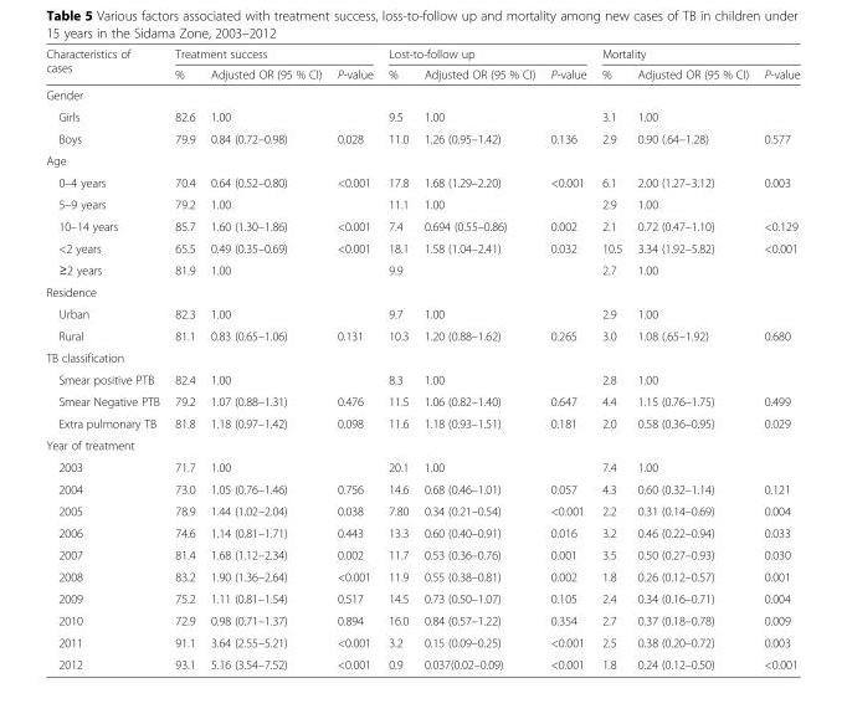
<table><thead><tr><td rowspan="2">Characteristics of cases</td><td colspan="3">Treatment success</td><td colspan="3">Lost-to-follow up</td><td colspan="3">Mortality</td></tr><tr><td>%</td><td>Adjusted OR (95 % CI)</td><td>P-value</td><td>%</td><td>Adjusted OR (95 % CI)</td><td>P-value</td><td>%</td><td>Adjusted OR (95 % CI)</td><td>P-value</td></tr></thead><tbody><tr><td colspan="10">Gender</td></tr><tr><td>Girls</td><td>82.6</td><td>1.00</td><td></td><td>9.5</td><td>1.00</td><td></td><td>3.1</td><td>1.00</td><td></td></tr><tr><td>Boys</td><td>79.9</td><td>0.84 (0.72–0.98)</td><td>0.028</td><td>11.0</td><td>1.26 (0.95–1.42)</td><td>0.136</td><td>2.9</td><td>0.90 (.64–1.28)</td><td>0.577</td></tr><tr><td colspan="10">Age</td></tr><tr><td>0–4 years</td><td>70.4</td><td>0.64 (0.52–0.80)</td><td>&lt;0.001</td><td>17.8</td><td>1.68 (1.29–2.20)</td><td>&lt;0.001</td><td>6.1</td><td>2.00 (1.27–3.12)</td><td>0.003</td></tr><tr><td>5–9 years</td><td>79.2</td><td>1.00</td><td></td><td>11.1</td><td>1.00</td><td></td><td>2.9</td><td>1.00</td><td></td></tr><tr><td>10–14 years</td><td>85.7</td><td>1.60 (1.30–1.86)</td><td>&lt;0.001</td><td>7.4</td><td>0.694 (0.55–0.86)</td><td>0.002</td><td>2.1</td><td>0.72 (0.47–1.10)</td><td>&lt;0.129</td></tr><tr><td>&lt;2 years</td><td>65.5</td><td>0.49 (0.35–0.69)</td><td>&lt;0.001</td><td>18.1</td><td>1.58 (1.04–2.41)</td><td>0.032</td><td>10.5</td><td>3.34 (1.92–5.82)</td><td>&lt;0.001</td></tr><tr><td>≥2 years</td><td>81.9</td><td>1.00</td><td></td><td>9.9</td><td></td><td></td><td>2.7</td><td>1.00</td><td></td></tr><tr><td colspan="10">Residence</td></tr><tr><td>Urban</td><td>82.3</td><td>1.00</td><td></td><td>9.7</td><td>1.00</td><td></td><td>2.9</td><td>1.00</td><td></td></tr><tr><td>Rural</td><td>81.1</td><td>0.83 (0.65–1.06)</td><td>0.131</td><td>10.3</td><td>1.20 (0.88–1.62)</td><td>0.265</td><td>3.0</td><td>1.08 (.65–1.92)</td><td>0.680</td></tr><tr><td colspan="10">TB classification</td></tr><tr><td>Smear positive PTB</td><td>82.4</td><td>1.00</td><td></td><td>8.3</td><td>1.00</td><td></td><td>2.8</td><td>1.00</td><td></td></tr><tr><td>Smear Negative PTB</td><td>79.2</td><td>1.07 (0.88–1.31)</td><td>0.476</td><td>11.5</td><td>1.06 (0.82–1.40)</td><td>0.647</td><td>4.4</td><td>1.15 (0.76–1.75)</td><td>0.499</td></tr><tr><td>Extra pulmonary TB</td><td>81.8</td><td>1.18 (0.97–1.42)</td><td>0.098</td><td>11.6</td><td>1.18 (0.93–1.51)</td><td>0.181</td><td>2.0</td><td>0.58 (0.36–0.95)</td><td>0.029</td></tr><tr><td colspan="10">Year of treatment</td></tr><tr><td>2003</td><td>71.7</td><td>1.00</td><td></td><td>20.1</td><td>1.00</td><td></td><td>7.4</td><td>1.00</td><td></td></tr><tr><td>2004</td><td>73.0</td><td>1.05 (0.76–1.46)</td><td>0.756</td><td>14.6</td><td>0.68 (0.46–1.01)</td><td>0.057</td><td>4.3</td><td>0.60 (0.32–1.14)</td><td>0.121</td></tr><tr><td>2005</td><td>78.9</td><td>1.44 (1.02–2.04)</td><td>0.038</td><td>7.80</td><td>0.34 (0.21–0.54)</td><td>&lt;0.001</td><td>2.2</td><td>0.31 (0.14–0.69)</td><td>0.004</td></tr><tr><td>2006</td><td>74.6</td><td>1.14 (0.81–1.71)</td><td>0.443</td><td>13.3</td><td>0.60 (0.40–0.91)</td><td>0.016</td><td>3.2</td><td>0.46 (0.22–0.94)</td><td>0.033</td></tr><tr><td>2007</td><td>81.4</td><td>1.68 (1.12–2.34)</td><td>0.002</td><td>11.7</td><td>0.53 (0.36–0.76)</td><td>0.001</td><td>3.5</td><td>0.50 (0.27–0.93)</td><td>0.030</td></tr><tr><td>2008</td><td>83.2</td><td>1.90 (1.36–2.64)</td><td>&lt;0.001</td><td>11.9</td><td>0.55 (0.38–0.81)</td><td>0.002</td><td>1.8</td><td>0.26 (0.12–0.57)</td><td>0.001</td></tr><tr><td>2009</td><td>75.2</td><td>1.11 (0.81–1.54)</td><td>0.517</td><td>14.5</td><td>0.73 (0.50–1.07)</td><td>0.105</td><td>2.4</td><td>0.34 (0.16–0.71)</td><td>0.004</td></tr><tr><td>2010</td><td>72.9</td><td>0.98 (0.71–1.37)</td><td>0.894</td><td>16.0</td><td>0.84 (0.57–1.22)</td><td>0.354</td><td>2.7</td><td>0.37 (0.18–0.78)</td><td>0.009</td></tr><tr><td>2011</td><td>91.1</td><td>3.64 (2.55–5.21)</td><td>&lt;0.001</td><td>3.2</td><td>0.15 (0.09–0.25)</td><td>&lt;0.001</td><td>2.5</td><td>0.38 (0.20–0.72)</td><td>0.003</td></tr><tr><td>2012</td><td>93.1</td><td>5.16 (3.54–7.52)</td><td>&lt;0.001</td><td>0.9</td><td>0.037(0.02–0.09)</td><td>&lt;0.001</td><td>1.8</td><td>0.24 (0.12–0.50)</td><td>&lt;0.001</td></tr></tbody></table>